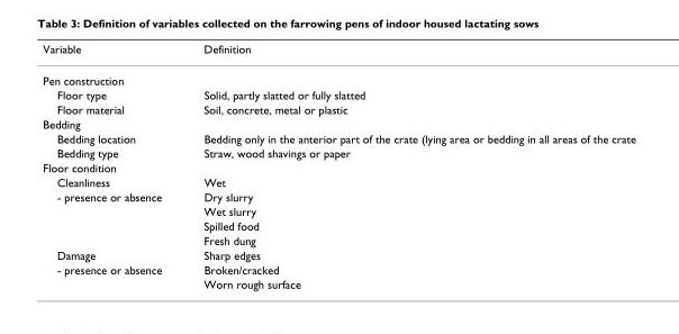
<table><thead><tr><td>Variable</td><td>Definition</td></tr></thead><tbody><tr><td colspan="2">Pen construction</td></tr><tr><td>Floor type</td><td>Solid, partly slatted or fully slatted</td></tr><tr><td>Floor material</td><td>Soil, concrete, metal or plastic</td></tr><tr><td colspan="2">Bedding</td></tr><tr><td>Bedding location</td><td>Bedding only in the anterior part of the crate (lying area or bedding in all areas of the crate</td></tr><tr><td>Bedding type</td><td>Straw, wood shavings or paper</td></tr><tr><td colspan="2">Floor condition</td></tr><tr><td>Cleanliness</td><td>Wet</td></tr><tr><td rowspan="4">- presence or absence</td><td>Dry slurry</td></tr><tr><td>Wet slurry</td></tr><tr><td>Spilled food</td></tr><tr><td>Fresh dung</td></tr><tr><td>Damage</td><td>Sharp edges</td></tr><tr><td rowspan="2">- presence or absence</td><td>Broken/cracked</td></tr><tr><td>Worn rough surface</td></tr></tbody></table>